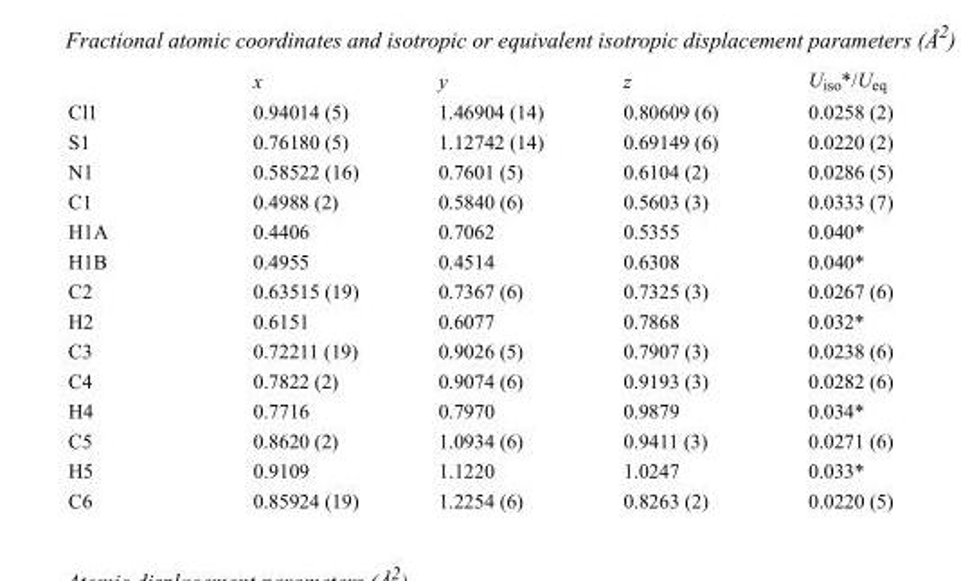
<table><thead><tr><td></td><td>x</td><td>y</td><td>z</td><td>U<sub>iso</sub>*/U<sub>eq</sub></td></tr></thead><tbody><tr><td>Cl1</td><td>0.94014 (5)</td><td>1.46904 (14)</td><td>0.80609 (6)</td><td>0.0258 (2)</td></tr><tr><td>S1</td><td>0.76180 (5)</td><td>1.12742 (14)</td><td>0.69149 (6)</td><td>0.0220 (2)</td></tr><tr><td>N1</td><td>0.58522 (16)</td><td>0.7601 (5)</td><td>0.6104 (2)</td><td>0.0286 (5)</td></tr><tr><td>C1</td><td>0.4988 (2)</td><td>0.5840 (6)</td><td>0.5603 (3)</td><td>0.0333 (7)</td></tr><tr><td>H1A</td><td>0.4406</td><td>0.7062</td><td>0.5355</td><td>0.040*</td></tr><tr><td>H1B</td><td>0.4955</td><td>0.4514</td><td>0.6308</td><td>0.040*</td></tr><tr><td>C2</td><td>0.63515 (19)</td><td>0.7367 (6)</td><td>0.7325 (3)</td><td>0.0267 (6)</td></tr><tr><td>H2</td><td>0.6151</td><td>0.6077</td><td>0.7868</td><td>0.032*</td></tr><tr><td>C3</td><td>0.72211 (19)</td><td>0.9026 (5)</td><td>0.7907 (3)</td><td>0.0238 (6)</td></tr><tr><td>C4</td><td>0.7822 (2)</td><td>0.9074 (6)</td><td>0.9193 (3)</td><td>0.0282 (6)</td></tr><tr><td>H4</td><td>0.7716</td><td>0.7970</td><td>0.9879</td><td>0.034*</td></tr><tr><td>C5</td><td>0.8620 (2)</td><td>1.0934 (6)</td><td>0.9411 (3)</td><td>0.0271 (6)</td></tr><tr><td>H5</td><td>0.9109</td><td>1.1220</td><td>1.0247</td><td>0.033*</td></tr><tr><td>C6</td><td>0.85924 (19)</td><td>1.2254 (6)</td><td>0.8263 (2)</td><td>0.0220 (5)</td></tr></tbody></table>